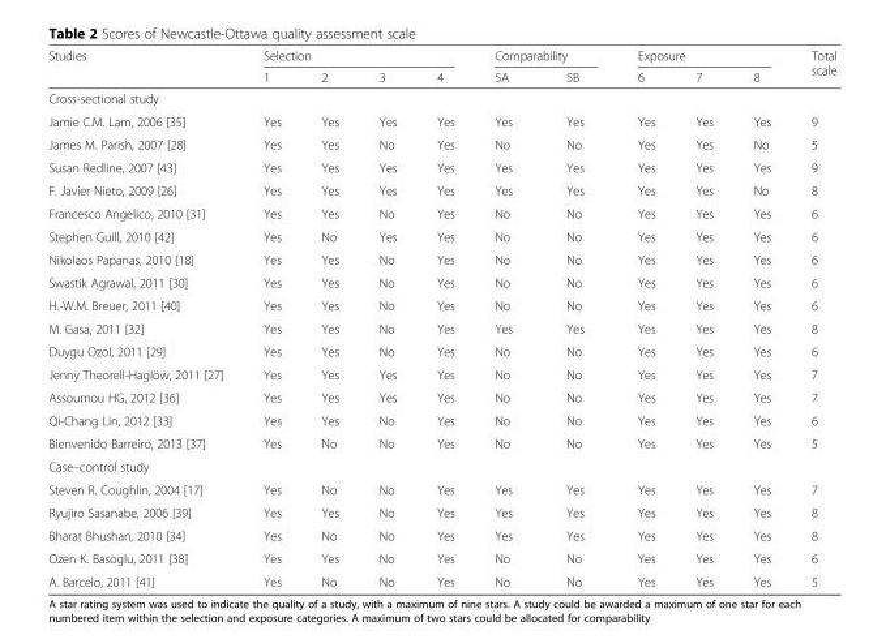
<table><thead><tr><td rowspan="2">Studies</td><td colspan="4">Selection</td><td colspan="2">Comparability</td><td colspan="3">Exposure</td><td rowspan="2">Total scale</td></tr><tr><td>1</td><td>2</td><td>3</td><td>4</td><td>5A</td><td>5B</td><td>6</td><td>7</td><td>8</td></tr></thead><tbody><tr><td colspan="11">Cross-sectional study</td></tr><tr><td>Jamie C.M. Lam, 2006 [35]</td><td>Yes</td><td>Yes</td><td>Yes</td><td>Yes</td><td>Yes</td><td>Yes</td><td>Yes</td><td>Yes</td><td>Yes</td><td>9</td></tr><tr><td>James M. Parish, 2007 [28]</td><td>Yes</td><td>Yes</td><td>No</td><td>Yes</td><td>No</td><td>No</td><td>Yes</td><td>Yes</td><td>No</td><td>5</td></tr><tr><td>Susan Redline, 2007 [43]</td><td>Yes</td><td>Yes</td><td>Yes</td><td>Yes</td><td>Yes</td><td>Yes</td><td>Yes</td><td>Yes</td><td>Yes</td><td>9</td></tr><tr><td>F. Javier Nieto, 2009 [26]</td><td>Yes</td><td>Yes</td><td>Yes</td><td>Yes</td><td>Yes</td><td>Yes</td><td>Yes</td><td>Yes</td><td>No</td><td>8</td></tr><tr><td>Francesco Angelico, 2010 [31]</td><td>Yes</td><td>Yes</td><td>No</td><td>Yes</td><td>No</td><td>No</td><td>Yes</td><td>Yes</td><td>Yes</td><td>6</td></tr><tr><td>Stephen Guill, 2010 [42]</td><td>Yes</td><td>No</td><td>Yes</td><td>Yes</td><td>No</td><td>No</td><td>Yes</td><td>Yes</td><td>Yes</td><td>6</td></tr><tr><td>Nikolaos Papanas, 2010 [18]</td><td>Yes</td><td>Yes</td><td>No</td><td>Yes</td><td>No</td><td>No</td><td>Yes</td><td>Yes</td><td>Yes</td><td>6</td></tr><tr><td>Swastik Agrawal, 2011 [30]</td><td>Yes</td><td>Yes</td><td>No</td><td>Yes</td><td>No</td><td>No</td><td>Yes</td><td>Yes</td><td>Yes</td><td>6</td></tr><tr><td>H.-W.M. Breuer, 2011 [40]</td><td>Yes</td><td>Yes</td><td>No</td><td>Yes</td><td>No</td><td>No</td><td>Yes</td><td>Yes</td><td>Yes</td><td>6</td></tr><tr><td>M. Gasa, 2011 [32]</td><td>Yes</td><td>Yes</td><td>No</td><td>Yes</td><td>Yes</td><td>Yes</td><td>Yes</td><td>Yes</td><td>Yes</td><td>8</td></tr><tr><td>Duygu Ozol, 2011 [29]</td><td>Yes</td><td>Yes</td><td>No</td><td>Yes</td><td>No</td><td>No</td><td>Yes</td><td>Yes</td><td>Yes</td><td>6</td></tr><tr><td>Jenny Theorell-Haglöw, 2011 [27]</td><td>Yes</td><td>Yes</td><td>Yes</td><td>Yes</td><td>No</td><td>No</td><td>Yes</td><td>Yes</td><td>Yes</td><td>7</td></tr><tr><td>Assoumou HG, 2012 [36]</td><td>Yes</td><td>Yes</td><td>Yes</td><td>Yes</td><td>No</td><td>No</td><td>Yes</td><td>Yes</td><td>Yes</td><td>7</td></tr><tr><td>Qi-Chang Lin, 2012 [33]</td><td>Yes</td><td>Yes</td><td>No</td><td>Yes</td><td>No</td><td>No</td><td>Yes</td><td>Yes</td><td>Yes</td><td>6</td></tr><tr><td>Bienvenido Barreiro, 2013 [37]</td><td>Yes</td><td>No</td><td>No</td><td>Yes</td><td>No</td><td>No</td><td>Yes</td><td>Yes</td><td>Yes</td><td>5</td></tr><tr><td colspan="11">Case–control study</td></tr><tr><td>Steven R. Coughlin, 2004 [17]</td><td>Yes</td><td>No</td><td>No</td><td>Yes</td><td>Yes</td><td>Yes</td><td>Yes</td><td>Yes</td><td>Yes</td><td>7</td></tr><tr><td>Ryujiro Sasanabe, 2006 [39]</td><td>Yes</td><td>Yes</td><td>No</td><td>Yes</td><td>Yes</td><td>Yes</td><td>Yes</td><td>Yes</td><td>Yes</td><td>8</td></tr><tr><td>Bharat Bhushan, 2010 [34]</td><td>Yes</td><td>No</td><td>No</td><td>Yes</td><td>Yes</td><td>Yes</td><td>Yes</td><td>Yes</td><td>Yes</td><td>8</td></tr><tr><td>Ozen K. Basoglu, 2011 [38]</td><td>Yes</td><td>Yes</td><td>No</td><td>Yes</td><td>No</td><td>No</td><td>Yes</td><td>Yes</td><td>Yes</td><td>6</td></tr><tr><td>A. Barcelo, 2011 [41]</td><td>Yes</td><td>No</td><td>No</td><td>Yes</td><td>No</td><td>No</td><td>Yes</td><td>Yes</td><td>Yes</td><td>5</td></tr></tbody></table>